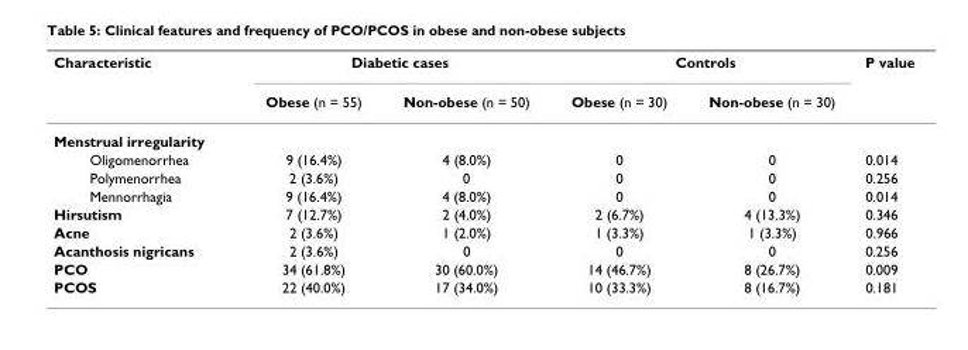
<table><thead><tr><td rowspan="2">Characteristic</td><td colspan="2">Diabetic cases</td><td colspan="2">Controls</td><td rowspan="2">P value</td></tr><tr><td>Obese (n = 55)</td><td>Non-obese (n = 50)</td><td>Obese (n = 30)</td><td>Non-obese (n = 30)</td></tr></thead><tbody><tr><td colspan="6">Menstrual irregularity</td></tr><tr><td>Oligomenorrhea</td><td>9 (16.4%)</td><td>4 (8.0%)</td><td>0</td><td>0</td><td>0.014</td></tr><tr><td>Polymenorrhea</td><td>2 (3.6%)</td><td>0</td><td>0</td><td>0</td><td>0.256</td></tr><tr><td>Mennorrhagia</td><td>9 (16.4%)</td><td>4 (8.0%)</td><td>0</td><td>0</td><td>0.014</td></tr><tr><td>Hirsutism</td><td>7 (12.7%)</td><td>2 (4.0%)</td><td>2 (6.7%)</td><td>4 (13.3%)</td><td>0.346</td></tr><tr><td>Acne</td><td>2 (3.6%)</td><td>1 (2.0%)</td><td>1 (3.3%)</td><td>1 (3.3%)</td><td>0.966</td></tr><tr><td>Acanthosis nigricans</td><td>2 (3.6%)</td><td>0</td><td>0</td><td>0</td><td>0.256</td></tr><tr><td>PCO</td><td>34 (61.8%)</td><td>30 (60.0%)</td><td>14 (46.7%)</td><td>8 (26.7%)</td><td>0.009</td></tr><tr><td>PCOS</td><td>22 (40.0%)</td><td>17 (34.0%)</td><td>10 (33.3%)</td><td>8 (16.7%)</td><td>0.181</td></tr></tbody></table>